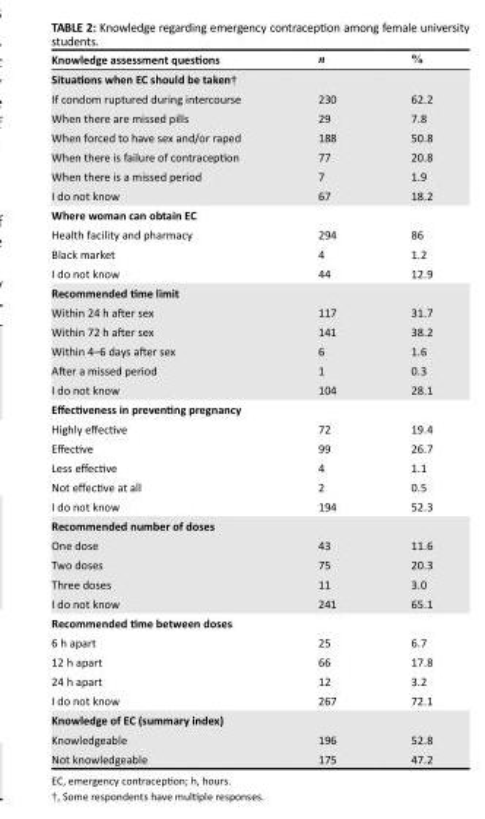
<table><thead><tr><td>Knowledge assessment questions</td><td>n</td><td>%</td></tr></thead><tbody><tr><td colspan="3">Situations when EC should be taken†</td></tr><tr><td>If condom ruptured during intercourse</td><td>230</td><td>62.2</td></tr><tr><td>When there are missed pills</td><td>29</td><td>7.8</td></tr><tr><td>When forced to have sex and/or raped</td><td>188</td><td>50.8</td></tr><tr><td>When there is failure of contraception</td><td>77</td><td>20.8</td></tr><tr><td>When there is a missed period</td><td>7</td><td>1.9</td></tr><tr><td>I do not know</td><td>67</td><td>18.2</td></tr><tr><td colspan="3">Where woman can obtain EC</td></tr><tr><td>Health facility and pharmacy</td><td>294</td><td>86</td></tr><tr><td>Black market</td><td>4</td><td>1.2</td></tr><tr><td>I do not know</td><td>44</td><td>12.9</td></tr><tr><td colspan="3">Recommended time limit</td></tr><tr><td>Within 24 h after sex</td><td>117</td><td>31.7</td></tr><tr><td>Within 72 h after sex</td><td>141</td><td>38.2</td></tr><tr><td>Within 4–6 days after sex</td><td>6</td><td>1.6</td></tr><tr><td>After a missed period</td><td>1</td><td>0.3</td></tr><tr><td>I do not know</td><td>104</td><td>28.1</td></tr><tr><td colspan="3">Effectiveness in preventing pregnancy</td></tr><tr><td>Highly effective</td><td>72</td><td>19.4</td></tr><tr><td>Effective</td><td>99</td><td>26.7</td></tr><tr><td>Less effective</td><td>4</td><td>1.1</td></tr><tr><td>Not effective at all</td><td>2</td><td>0.5</td></tr><tr><td>I do not know</td><td>194</td><td>52.3</td></tr><tr><td colspan="3">Recommended number of doses</td></tr><tr><td>One dose</td><td>43</td><td>11.6</td></tr><tr><td>Two doses</td><td>75</td><td>20.3</td></tr><tr><td>Three doses</td><td>11</td><td>3.0</td></tr><tr><td>I do not know</td><td>241</td><td>65.1</td></tr><tr><td colspan="3">Recommended time between doses</td></tr><tr><td>6 h apart</td><td>25</td><td>6.7</td></tr><tr><td>12 h apart</td><td>66</td><td>17.8</td></tr><tr><td>24 h apart</td><td>12</td><td>3.2</td></tr><tr><td>I do not know</td><td>267</td><td>72.1</td></tr><tr><td colspan="3">Knowledge of EC (summary index)</td></tr><tr><td>Knowledgeable</td><td>196</td><td>52.8</td></tr><tr><td>Not knowledgeable</td><td>175</td><td>47.2</td></tr></tbody></table>